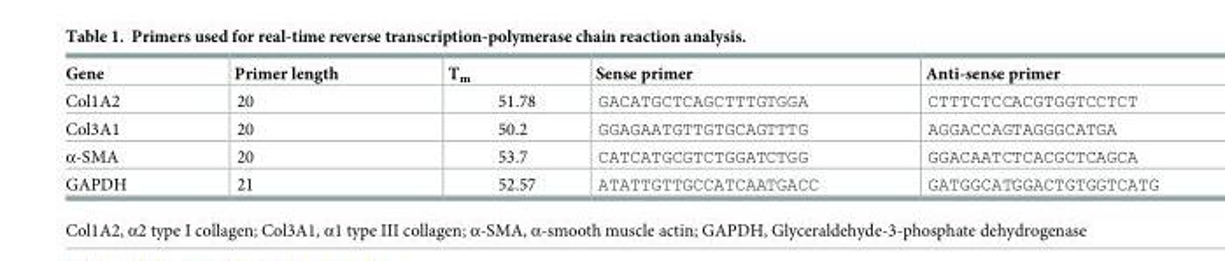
<table><thead><tr><td>Gene</td><td>Primer length</td><td>T<sub>m</sub></td><td>Sense primer</td><td>Anti-sense primer</td></tr></thead><tbody><tr><td>Col1A2</td><td>20</td><td>51.78</td><td>GACATGCTCAGCTTTGTGGA</td><td>CTTTCTCCACGTGGTCCTCT</td></tr><tr><td>Col3A1</td><td>20</td><td>50.2</td><td>GGAGAATGTTGTGCAGTTTG</td><td>AGGACCAGTAGGGCATGA</td></tr><tr><td>α-SMA</td><td>20</td><td>53.7</td><td>CATCATGCGTCTGGATCTGG</td><td>GGACAATCTCACGCTCAGCA</td></tr><tr><td>GAPDH</td><td>21</td><td>52.57</td><td>ATATTGTTGCCATCAATGACC</td><td>GATGGCATGGACTGTGGTCATG</td></tr></tbody></table>